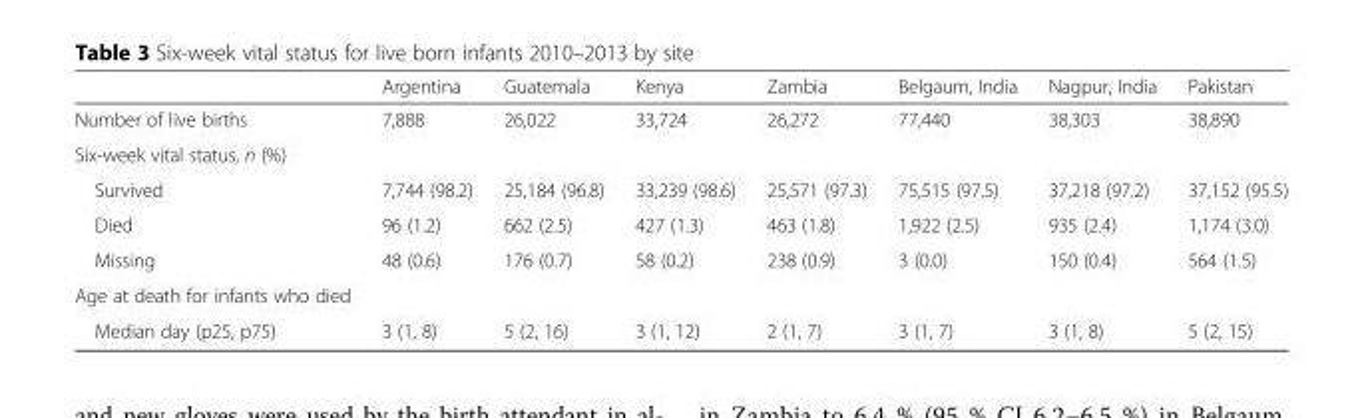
<table><thead><tr><td></td><td>Argentina</td><td>Guatemala</td><td>Kenya</td><td>Zambia</td><td>Belgaum, India</td><td>Nagpur, India</td><td>Pakistan</td></tr></thead><tbody><tr><td>Number of live births</td><td>7,888</td><td>26,022</td><td>33,724</td><td>26,272</td><td>77,440</td><td>38,303</td><td>38,890</td></tr><tr><td colspan="8">Six-week vital status, n (%)</td></tr><tr><td>Survived</td><td>7,744 (98.2)</td><td>25,184 (96.8)</td><td>33,239 (98.6)</td><td>25,571 (97.3)</td><td>75,515 (97.5)</td><td>37,218 (97.2)</td><td>37,152 (95.5)</td></tr><tr><td>Died</td><td>96 (1.2)</td><td>662 (2.5)</td><td>427 (1.3)</td><td>463 (1.8)</td><td>1,922 (2.5)</td><td>935 (2.4)</td><td>1,174 (3.0)</td></tr><tr><td>Missing</td><td>48 (0.6)</td><td>176 (0.7)</td><td>58 (0.2)</td><td>238 (0.9)</td><td>3 (0.0)</td><td>150 (0.4)</td><td>564 (1.5)</td></tr><tr><td colspan="8">Age at death for infants who died</td></tr><tr><td>Median day (p25, p75)</td><td>3 (1, 8)</td><td>5 (2, 16)</td><td>3 (1, 12)</td><td>2 (1, 7)</td><td>3 (1, 7)</td><td>3 (1, 8)</td><td>5 (2, 15)</td></tr></tbody></table>